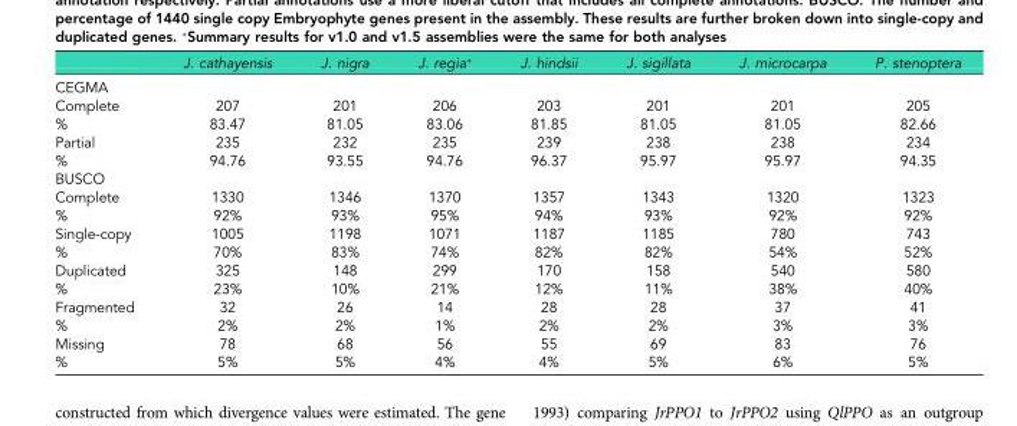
<table><thead><tr><td></td><td>J. cathayensis</td><td>J. nigra</td><td>J. regia*</td><td>J. hindsii</td><td>J. sigillata</td><td>J. microcarpa</td><td>P. stenoptera</td></tr></thead><tbody><tr><td colspan="8">CEGMA</td></tr><tr><td>Complete</td><td>207</td><td>201</td><td>206</td><td>203</td><td>201</td><td>201</td><td>205</td></tr><tr><td>%</td><td>83.47</td><td>81.05</td><td>83.06</td><td>81.85</td><td>81.05</td><td>81.05</td><td>82.66</td></tr><tr><td>Partial</td><td>235</td><td>232</td><td>235</td><td>239</td><td>238</td><td>238</td><td>234</td></tr><tr><td>%</td><td>94.76</td><td>93.55</td><td>94.76</td><td>96.37</td><td>95.97</td><td>95.97</td><td>94.35</td></tr><tr><td colspan="8">BUSCO</td></tr><tr><td>Complete</td><td>1330</td><td>1346</td><td>1370</td><td>1357</td><td>1343</td><td>1320</td><td>1323</td></tr><tr><td>%</td><td>92%</td><td>93%</td><td>95%</td><td>94%</td><td>93%</td><td>92%</td><td>92%</td></tr><tr><td>Single-copy</td><td>1005</td><td>1198</td><td>1071</td><td>1187</td><td>1185</td><td>780</td><td>743</td></tr><tr><td>%</td><td>70%</td><td>83%</td><td>74%</td><td>82%</td><td>82%</td><td>54%</td><td>52%</td></tr><tr><td>Duplicated</td><td>325</td><td>148</td><td>299</td><td>170</td><td>158</td><td>540</td><td>580</td></tr><tr><td>%</td><td>23%</td><td>10%</td><td>21%</td><td>12%</td><td>11%</td><td>38%</td><td>40%</td></tr><tr><td>Fragmented</td><td>32</td><td>26</td><td>14</td><td>28</td><td>28</td><td>37</td><td>41</td></tr><tr><td>%</td><td>2%</td><td>2%</td><td>1%</td><td>2%</td><td>2%</td><td>3%</td><td>3%</td></tr><tr><td>Missing</td><td>78</td><td>68</td><td>56</td><td>55</td><td>69</td><td>83</td><td>76</td></tr><tr><td>%</td><td>5%</td><td>5%</td><td>4%</td><td>4%</td><td>5%</td><td>6%</td><td>5%</td></tr></tbody></table>